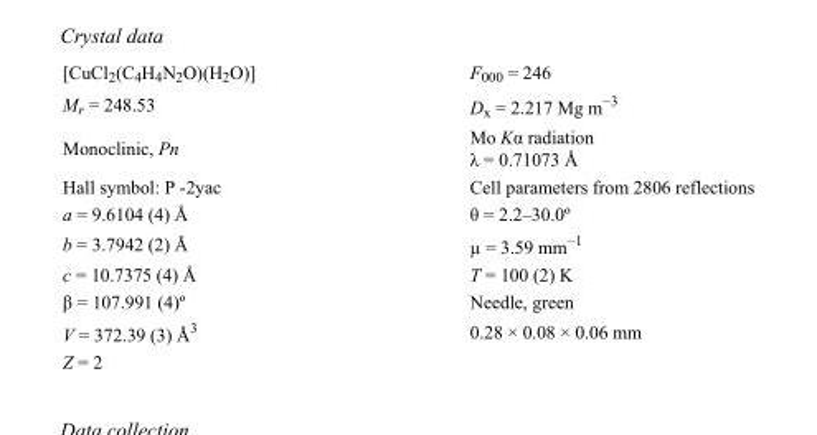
<table><tbody><tr><td>[CuCl<sub>2</sub>(C<sub>4</sub>H<sub>4</sub>N<sub>2</sub>O)(H<sub>2</sub>O)]</td><td>F<sub>000</sub> = 246</td></tr><tr><td>M<sub>r</sub> = 248.53</td><td>D<sub>x</sub> = 2.217 Mg m<sup>−3</sup></td></tr><tr><td>Monoclinic, Pn</td><td>Mo Kα radiation λ = 0.71073 Å</td></tr><tr><td>Hall symbol: P -2yac</td><td>Cell parameters from 2806 reflections</td></tr><tr><td>a = 9.6104 (4) Å</td><td>θ = 2.2–30.0º</td></tr><tr><td>b = 3.7942 (2) Å</td><td>µ = 3.59 mm<sup>−1</sup></td></tr><tr><td>c = 10.7375 (4) Å</td><td>T = 100 (2) K</td></tr><tr><td>β = 107.991 (4)º</td><td>Needle, green</td></tr><tr><td>V = 372.39 (3) Å<sup>3</sup></td><td>0.28 × 0.08 × 0.06 mm</td></tr><tr><td>Z = 2</td><td></td></tr></tbody></table>